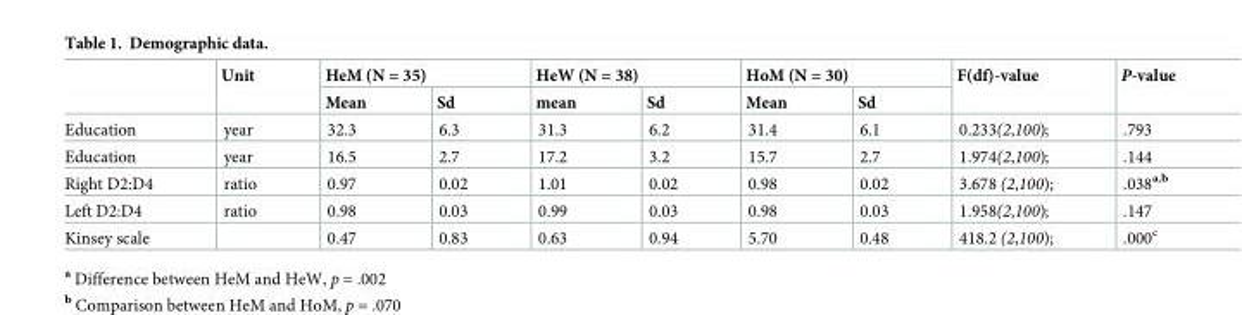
<table><thead><tr><td rowspan="2"></td><td rowspan="2">Unit</td><td colspan="2">HeM (N = 35)</td><td colspan="2">HeW (N = 38)</td><td colspan="2">HoM (N = 30)</td><td rowspan="2">F(df)-value</td><td rowspan="2">P-value</td></tr><tr><td>Mean</td><td>Sd</td><td>mean</td><td>Sd</td><td>Mean</td><td>Sd</td></tr></thead><tbody><tr><td>Education</td><td>year</td><td>32.3</td><td>6.3</td><td>31.3</td><td>6.2</td><td>31.4</td><td>6.1</td><td>0.233(2,100);</td><td>.793</td></tr><tr><td>Education</td><td>year</td><td>16.5</td><td>2.7</td><td>17.2</td><td>3.2</td><td>15.7</td><td>2.7</td><td>1.974(2,100);</td><td>.144</td></tr><tr><td>Right D2:D4</td><td>ratio</td><td>0.97</td><td>0.02</td><td>1.01</td><td>0.02</td><td>0.98</td><td>0.02</td><td>3.678 (2,100);</td><td>.038<sup>a,b</sup></td></tr><tr><td>Left D2:D4</td><td>ratio</td><td>0.98</td><td>0.03</td><td>0.99</td><td>0.03</td><td>0.98</td><td>0.03</td><td>1.958(2,100);</td><td>.147</td></tr><tr><td>Kinsey scale</td><td></td><td>0.47</td><td>0.83</td><td>0.63</td><td>0.94</td><td>5.70</td><td>0.48</td><td>418.2 (2,100);</td><td>.000<sup>c</sup></td></tr></tbody></table>